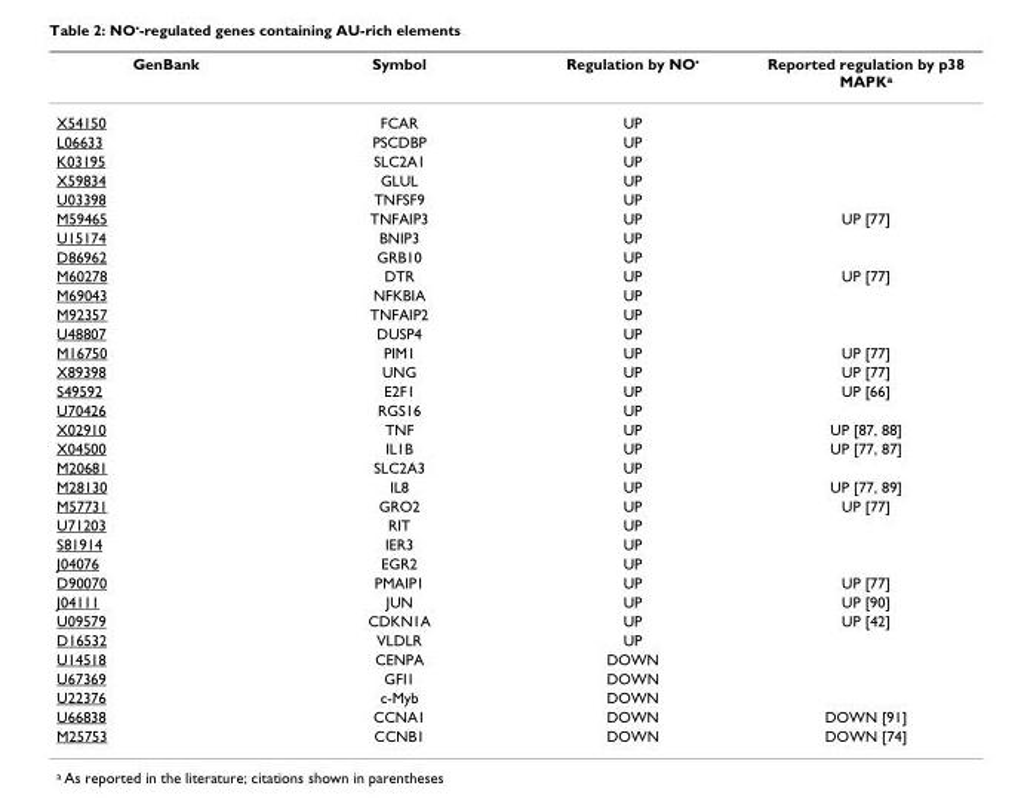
<table><thead><tr><td>GenBank</td><td>Symbol</td><td>Regulation by NO<sup>•</sup></td><td>Reported regulation by p38 MAPK<sup>a</sup></td></tr></thead><tbody><tr><td>X54150</td><td>FCAR</td><td>UP</td><td></td></tr><tr><td>L06633</td><td>PSCDBP</td><td>UP</td><td></td></tr><tr><td>K03195</td><td>SLC2A1</td><td>UP</td><td></td></tr><tr><td>X59834</td><td>GLUL</td><td>UP</td><td></td></tr><tr><td>U03398</td><td>TNFSF9</td><td>UP</td><td></td></tr><tr><td>M59465</td><td>TNFAIP3</td><td>UP</td><td>UP [77]</td></tr><tr><td>U15174</td><td>BNIP3</td><td>UP</td><td></td></tr><tr><td>D86962</td><td>GRB10</td><td>UP</td><td></td></tr><tr><td>M60278</td><td>DTR</td><td>UP</td><td>UP [77]</td></tr><tr><td>M69043</td><td>NFKBIA</td><td>UP</td><td></td></tr><tr><td>M92357</td><td>TNFAIP2</td><td>UP</td><td></td></tr><tr><td>U48807</td><td>DUSP4</td><td>UP</td><td></td></tr><tr><td>M16750</td><td>PIM1</td><td>UP</td><td>UP [77]</td></tr><tr><td>X89398</td><td>UNG</td><td>UP</td><td>UP [77]</td></tr><tr><td>S49592</td><td>E2F1</td><td>UP</td><td>UP [66]</td></tr><tr><td>U70426</td><td>RGS16</td><td>UP</td><td></td></tr><tr><td>X02910</td><td>TNF</td><td>UP</td><td>UP [87, 88]</td></tr><tr><td>X04500</td><td>IL1B</td><td>UP</td><td>UP [77, 87]</td></tr><tr><td>M20681</td><td>SLC2A3</td><td>UP</td><td></td></tr><tr><td>M28130</td><td>IL8</td><td>UP</td><td>UP [77, 89]</td></tr><tr><td>M57731</td><td>GRO2</td><td>UP</td><td>UP [77]</td></tr><tr><td>U71203</td><td>RIT</td><td>UP</td><td></td></tr><tr><td>S81914</td><td>IER3</td><td>UP</td><td></td></tr><tr><td>J04076</td><td>EGR2</td><td>UP</td><td></td></tr><tr><td>D90070</td><td>PMAIP1</td><td>UP</td><td>UP [77]</td></tr><tr><td>J04111</td><td>JUN</td><td>UP</td><td>UP [90]</td></tr><tr><td>U09579</td><td>CDKN1A</td><td>UP</td><td>UP [42]</td></tr><tr><td>D16532</td><td>VLDLR</td><td>UP</td><td></td></tr><tr><td>U14518</td><td>CENPA</td><td>DOWN</td><td></td></tr><tr><td>U67369</td><td>GFI1</td><td>DOWN</td><td></td></tr><tr><td>U22376</td><td>c-Myb</td><td>DOWN</td><td></td></tr><tr><td>U66838</td><td>CCNA1</td><td>DOWN</td><td>DOWN [91]</td></tr><tr><td>M25753</td><td>CCNB1</td><td>DOWN</td><td>DOWN [74]</td></tr></tbody></table>